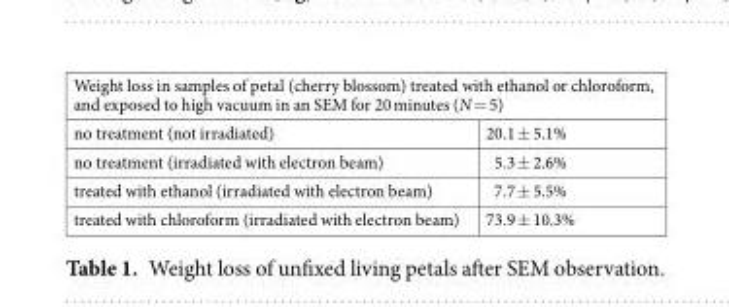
<table><tbody><tr><td colspan="2">Weight loss in samples of petal (cherry blossom) treated with ethanol or chloroform, and exposed to high vacuum in an SEM for 20 minutes (N = 5)</td></tr><tr><td>no treatment (not irradiated)</td><td>20.1 ± 5.1%</td></tr><tr><td>no treatment (irradiated with electron beam)</td><td>5.3 ± 2.6%</td></tr><tr><td>treated with ethanol (irradiated with electron beam)</td><td>7.7 ± 5.5%</td></tr><tr><td>treated with chloroform (irradiated with electron beam)</td><td>73.9 ± 10.3%</td></tr></tbody></table>